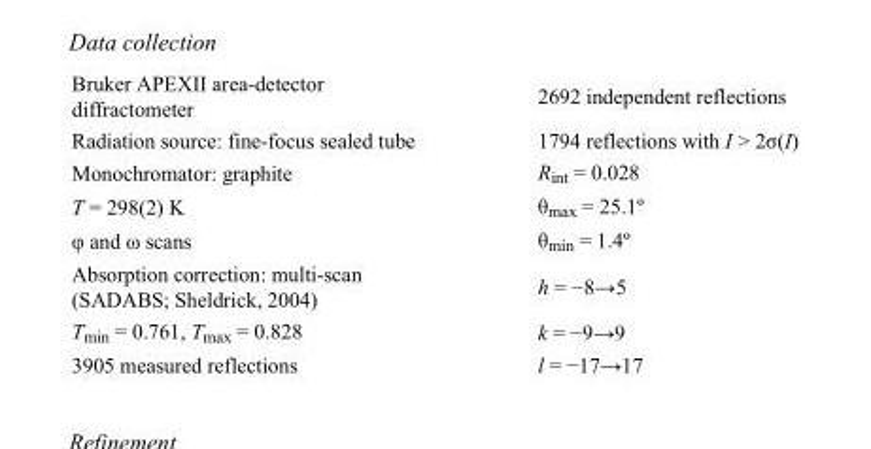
<table><tbody><tr><td>Bruker APEXII area-detector diffractometer</td><td>2692 independent reflections</td></tr><tr><td>Radiation source: fine-focus sealed tube</td><td>1794 reflections with I &gt; 2σ(I)</td></tr><tr><td>Monochromator: graphite</td><td>R<sub>int</sub> = 0.028</td></tr><tr><td>T = 298(2) K</td><td>θ<sub>max</sub> = 25.1º</td></tr><tr><td>φ and ω scans</td><td>θ<sub>min</sub> = 1.4º</td></tr><tr><td>Absorption correction: multi-scan (SADABS; Sheldrick, 2004)</td><td>h = −8→5</td></tr><tr><td>T<sub>min</sub> = 0.761, T<sub>max</sub> = 0.828</td><td>k = −9→9</td></tr><tr><td>3905 measured reflections</td><td>l = −17→17</td></tr></tbody></table>